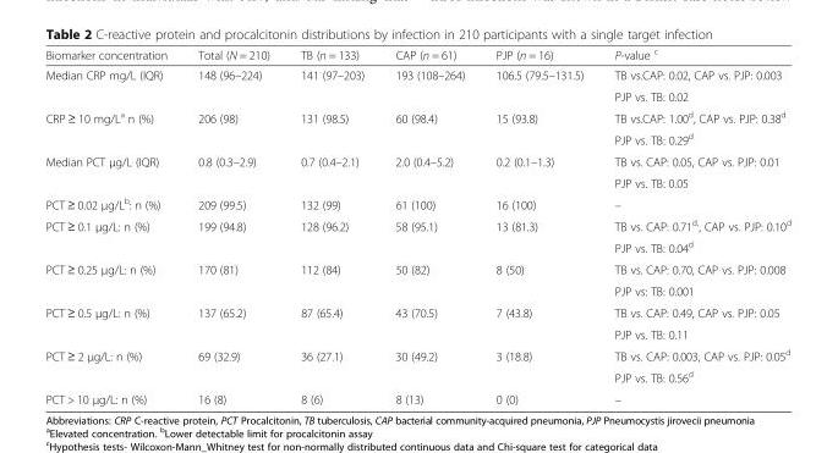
<table><thead><tr><td>Biomarker concentration</td><td>Total (N = 210)</td><td>TB (n = 133)</td><td>CAP (n = 61)</td><td>PJP (n = 16)</td><td>P-value <sup>c</sup></td></tr></thead><tbody><tr><td rowspan="2">Median CRP mg/L (IQR)</td><td rowspan="2">148 (96–224)</td><td rowspan="2">141 (97–203)</td><td rowspan="2">193 (108–264)</td><td rowspan="2">106.5 (79.5–131.5)</td><td>TB vs.CAP: 0.02, CAP vs. PJP: 0.003</td></tr><tr><td>PJP vs. TB: 0.02</td></tr><tr><td rowspan="2">CRP ≥ 10 mg/L<sup>a</sup> n (%)</td><td rowspan="2">206 (98)</td><td rowspan="2">131 (98.5)</td><td rowspan="2">60 (98.4)</td><td rowspan="2">15 (93.8)</td><td>TB vs.CAP: 1.00<sup>d</sup>, CAP vs. PJP: 0.38<sup>d</sup></td></tr><tr><td>PJP vs. TB: 0.29<sup>d</sup></td></tr><tr><td rowspan="2">Median PCT μg/L (IQR)</td><td rowspan="2">0.8 (0.3–2.9)</td><td rowspan="2">0.7 (0.4–2.1)</td><td rowspan="2">2.0 (0.4–5.2)</td><td rowspan="2">0.2 (0.1–1.3)</td><td>TB vs. CAP: 0.05, CAP vs. PJP: 0.01</td></tr><tr><td>PJP vs. TB: 0.05</td></tr><tr><td>PCT ≥ 0.02 μg/L<sup>b</sup>: n (%)</td><td>209 (99.5)</td><td>132 (99)</td><td>61 (100)</td><td>16 (100)</td><td>–</td></tr><tr><td rowspan="2">PCT ≥ 0.1 μg/L: n (%)</td><td rowspan="2">199 (94.8)</td><td rowspan="2">128 (96.2)</td><td rowspan="2">58 (95.1)</td><td rowspan="2">13 (81.3)</td><td>TB vs. CAP: 0.71<sup>d,</sup>, CAP vs. PJP: 0.10<sup>d</sup></td></tr><tr><td>PJP vs. TB: 0.04<sup>d</sup></td></tr><tr><td rowspan="2">PCT ≥ 0.25 μg/L: n (%)</td><td rowspan="2">170 (81)</td><td rowspan="2">112 (84)</td><td rowspan="2">50 (82)</td><td rowspan="2">8 (50)</td><td>TB vs. CAP: 0.70, CAP vs. PJP: 0.008</td></tr><tr><td>PJP vs: TB: 0.001</td></tr><tr><td rowspan="2">PCT ≥ 0.5 μg/L: n (%)</td><td rowspan="2">137 (65.2)</td><td rowspan="2">87 (65.4)</td><td rowspan="2">43 (70.5)</td><td rowspan="2">7 (43.8)</td><td>TB vs. CAP: 0.49, CAP vs. PJP: 0.05</td></tr><tr><td>PJP vs. TB: 0.11</td></tr><tr><td rowspan="2">PCT ≥ 2 μg/L: n (%)</td><td rowspan="2">69 (32.9)</td><td rowspan="2">36 (27.1)</td><td rowspan="2">30 (49.2)</td><td rowspan="2">3 (18.8)</td><td>TB vs. CAP: 0.003, CAP vs. PJP: 0.05<sup>d</sup></td></tr><tr><td>PJP vs. TB: 0.56<sup>d</sup></td></tr><tr><td>PCT &gt; 10 μg/L: n (%)</td><td>16 (8)</td><td>8 (6)</td><td>8 (13)</td><td>0 (0)</td><td>–</td></tr></tbody></table>